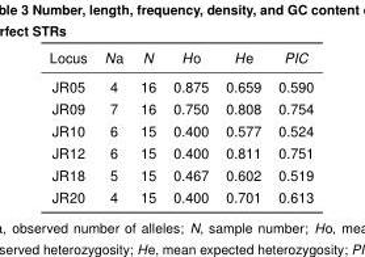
<table><thead><tr><td>Locus</td><td>Na</td><td>N</td><td>Ho</td><td>He</td><td>PIC</td></tr></thead><tbody><tr><td>JR05</td><td>4</td><td>16</td><td>0.875</td><td>0.659</td><td>0.590</td></tr><tr><td>JR09</td><td>7</td><td>16</td><td>0.750</td><td>0.808</td><td>0.754</td></tr><tr><td>JR10</td><td>6</td><td>15</td><td>0.400</td><td>0.577</td><td>0.524</td></tr><tr><td>JR12</td><td>6</td><td>15</td><td>0.400</td><td>0.811</td><td>0.751</td></tr><tr><td>JR18</td><td>5</td><td>15</td><td>0.467</td><td>0.602</td><td>0.519</td></tr><tr><td>JR20</td><td>4</td><td>15</td><td>0.400</td><td>0.701</td><td>0.613</td></tr></tbody></table>